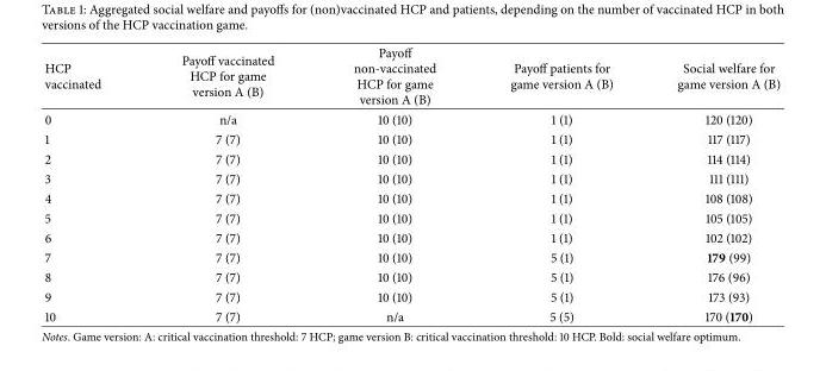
<table><thead><tr><td>HCP vaccinated</td><td>Payoff vaccinated HCP for game version A (B)</td><td>Payoff non-vaccinated HCP for game version A (B)</td><td>Payoff patients for game version A (B)</td><td>Social welfare for game version A (B)</td></tr></thead><tbody><tr><td>0</td><td>n/a</td><td>10 (10)</td><td>1 (1)</td><td>120 (120)</td></tr><tr><td>1</td><td>7 (7)</td><td>10 (10)</td><td>1 (1)</td><td>117 (117)</td></tr><tr><td>2</td><td>7 (7)</td><td>10 (10)</td><td>1 (1)</td><td>114 (114)</td></tr><tr><td>3</td><td>7 (7)</td><td>10 (10)</td><td>1 (1)</td><td>111 (111)</td></tr><tr><td>4</td><td>7 (7)</td><td>10 (10)</td><td>1 (1)</td><td>108 (108)</td></tr><tr><td>5</td><td>7 (7)</td><td>10 (10)</td><td>1 (1)</td><td>105 (105)</td></tr><tr><td>6</td><td>7 (7)</td><td>10 (10)</td><td>1 (1)</td><td>102 (102)</td></tr><tr><td>7</td><td>7 (7)</td><td>10 (10)</td><td>5 (1)</td><td>179 (99)</td></tr><tr><td>8</td><td>7 (7)</td><td>10 (10)</td><td>5 (1)</td><td>176 (96)</td></tr><tr><td>9</td><td>7 (7)</td><td>10 (10)</td><td>5 (1)</td><td>173 (93)</td></tr><tr><td>10</td><td>7 (7)</td><td>n/a</td><td>5 (5)</td><td>170 (170)</td></tr></tbody></table>